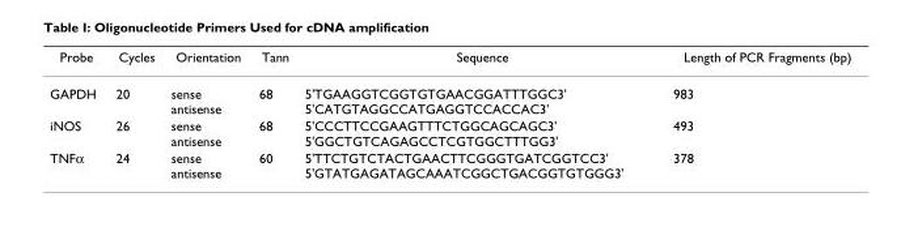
<table><thead><tr><td>Probe</td><td>Cycles</td><td>Orientation</td><td>Tann</td><td>Sequence</td><td>Length of PCR Fragments (bp)</td></tr></thead><tbody><tr><td>GAPDH</td><td>20</td><td>sense antisense</td><td>68</td><td>5&#x27;TGAAGGTCGGTGTGAACGGATTTGGC3&#x27; 5&#x27;CATGTAGGCCATGAGGTCCACCAC3&#x27;</td><td>983</td></tr><tr><td>iNOS</td><td>26</td><td>sense antisense</td><td>68</td><td>5&#x27;CCCTTCCGAAGTTTCTGGCAGCAGC3&#x27; 5&#x27;GGCTGTCAGAGCCTCGTGGCTTTGG3&#x27;</td><td>493</td></tr><tr><td>TNFα</td><td>24</td><td>sense antisense</td><td>60</td><td>5&#x27;TTCTGTCTACTGAACTTCGGGTGATCGGTCC3&#x27; 5&#x27;GTATGAGATAGCAAATCGGCTGACGGTGTGGG3&#x27;</td><td>378</td></tr></tbody></table>